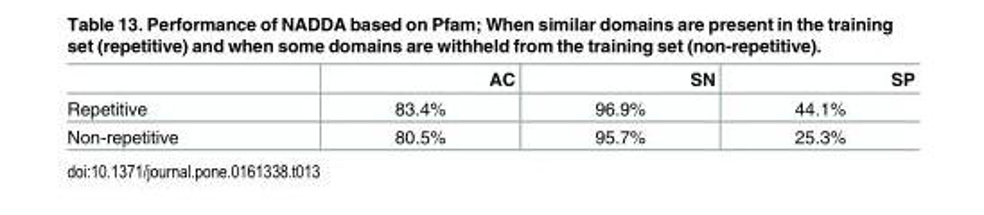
<table><thead><tr><td></td><td>AC</td><td>SN</td><td>SP</td></tr></thead><tbody><tr><td>Repetitive</td><td>83.4%</td><td>96.9%</td><td>44.1%</td></tr><tr><td>Non-repetitive</td><td>80.5%</td><td>95.7%</td><td>25.3%</td></tr></tbody></table>